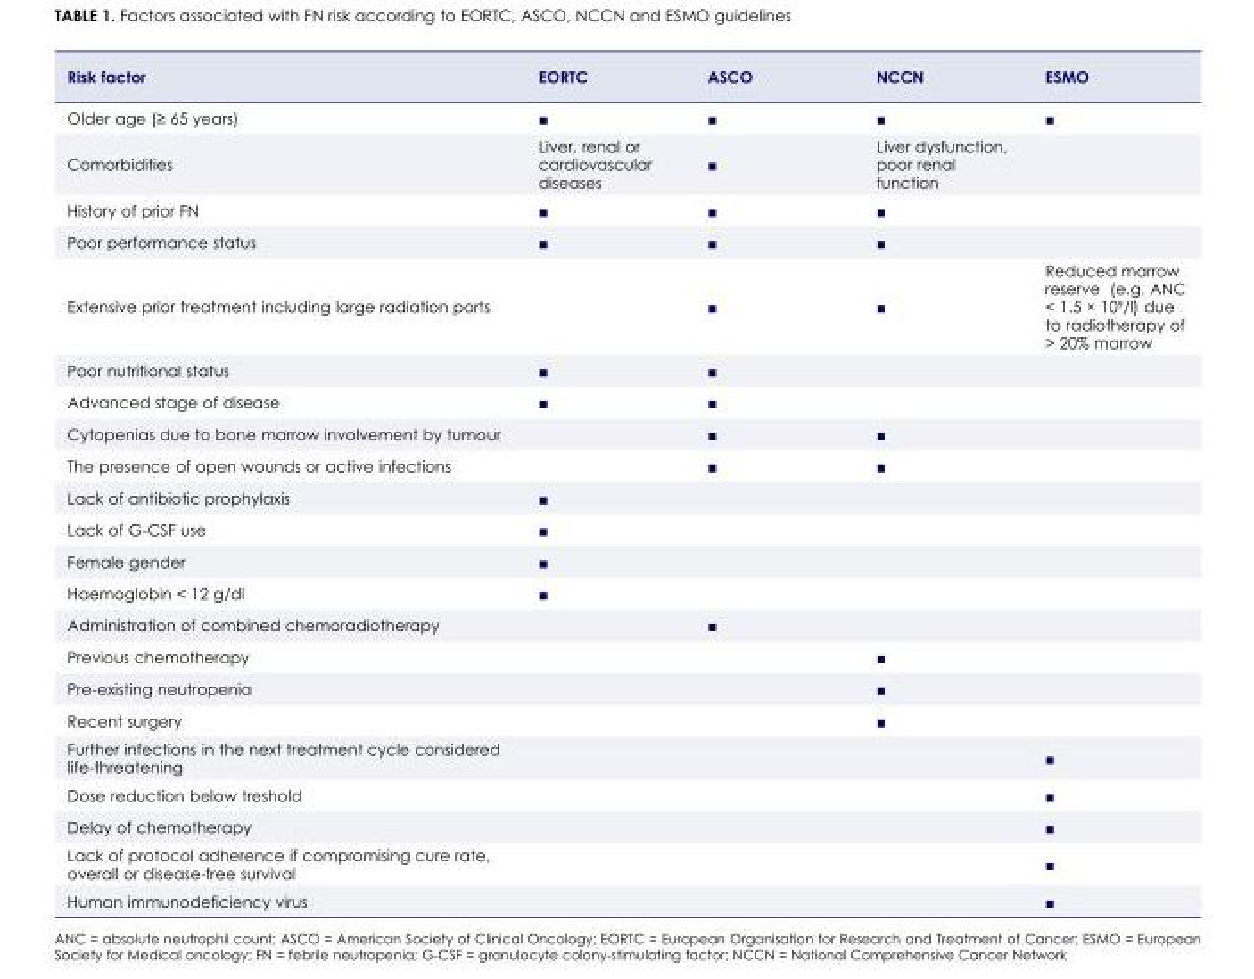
<table><thead><tr><td>Risk factor</td><td>EORTC</td><td>ASCO</td><td>NCCN</td><td>ESMO</td></tr></thead><tbody><tr><td>Older age (≥ 65 years)</td><td>■</td><td>■</td><td>■</td><td>■</td></tr><tr><td>Comorbidities</td><td>Liver, renal or cardiovascular diseases</td><td>■</td><td>Liver dysfunction, poor renal function</td><td></td></tr><tr><td>History of prior FN</td><td>■</td><td>■</td><td>■</td><td></td></tr><tr><td>Poor performance status</td><td>■</td><td>■</td><td>■</td><td></td></tr><tr><td>Extensive prior treatment including large radiation ports</td><td></td><td>■</td><td>■</td><td>Reduced marrow reserve (e.g. ANC &lt; 1.5 × 10<sup>9</sup>/l) due to radiotherapy of &gt; 20% marrow</td></tr><tr><td>Poor nutritional status</td><td>■</td><td>■</td><td></td><td></td></tr><tr><td>Advanced stage of disease</td><td>■</td><td>■</td><td></td><td></td></tr><tr><td>Cytopenias due to bone marrow involvement by tumour</td><td></td><td>■</td><td>■</td><td></td></tr><tr><td>The presence of open wounds or active infections</td><td></td><td>■</td><td>■</td><td></td></tr><tr><td>Lack of antibiotic prophylaxis</td><td>■</td><td></td><td></td><td></td></tr><tr><td>Lack of G-CSF use</td><td>■</td><td></td><td></td><td></td></tr><tr><td>Female gender</td><td>■</td><td></td><td></td><td></td></tr><tr><td>Haemoglobin &lt; 12 g/dl</td><td>■</td><td></td><td></td><td></td></tr><tr><td>Administration of combined chemoradiotherapy</td><td></td><td>■</td><td></td><td></td></tr><tr><td>Previous chemotherapy</td><td></td><td></td><td>■</td><td></td></tr><tr><td>Pre-existing neutropenia</td><td></td><td></td><td>■</td><td></td></tr><tr><td>Recent surgery</td><td></td><td></td><td>■</td><td></td></tr><tr><td>Further infections in the next treatment cycle considered life-threatening</td><td></td><td></td><td></td><td>■</td></tr><tr><td>Dose reduction below treshold</td><td></td><td></td><td></td><td>■</td></tr><tr><td>Delay of chemotherapy</td><td></td><td></td><td></td><td>■</td></tr><tr><td>Lack of protocol adherence if compromising cure rate, overall or disease-free survival</td><td></td><td></td><td></td><td>■</td></tr><tr><td>Human immunodeficiency virus</td><td></td><td></td><td></td><td>■</td></tr></tbody></table>